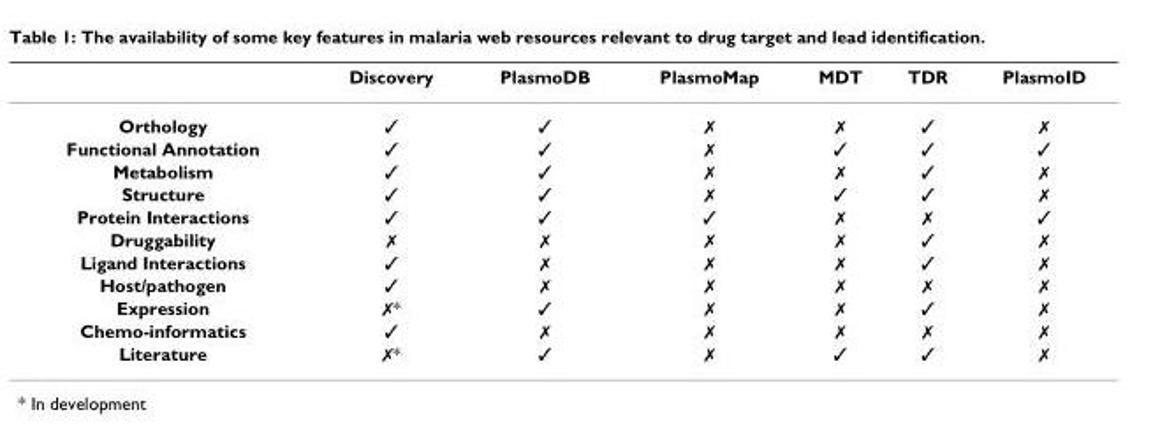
<table><thead><tr><td></td><td>Discovery</td><td>PlasmoDB</td><td>PlasmoMap</td><td>MDT</td><td>TDR</td><td>PlasmoID</td></tr></thead><tbody><tr><td>Orthology</td><td>✓</td><td>✓</td><td>✗</td><td>✗</td><td>✓</td><td>✗</td></tr><tr><td>Functional Annotation</td><td>✓</td><td>✓</td><td>✗</td><td>✓</td><td>✓</td><td>✓</td></tr><tr><td>Metabolism</td><td>✓</td><td>✓</td><td>✗</td><td>✗</td><td>✓</td><td>✗</td></tr><tr><td>Structure</td><td>✓</td><td>✓</td><td>✗</td><td>✓</td><td>✓</td><td>✗</td></tr><tr><td>Protein Interactions</td><td>✓</td><td>✓</td><td>✓</td><td>✗</td><td>✗</td><td>✓</td></tr><tr><td>Druggability</td><td>✗</td><td>✗</td><td>✗</td><td>✗</td><td>✓</td><td>✗</td></tr><tr><td>Ligand Interactions</td><td>✓</td><td>✗</td><td>✗</td><td>✗</td><td>✓</td><td>✗</td></tr><tr><td>Host/pathogen</td><td>✓</td><td>✗</td><td>✗</td><td>✗</td><td>✗</td><td>✗</td></tr><tr><td>Expression</td><td>✗*</td><td>✓</td><td>✗</td><td>✗</td><td>✓</td><td>✗</td></tr><tr><td>Chemo-informatics</td><td>✓</td><td>✗</td><td>✗</td><td>✗</td><td>✗</td><td>✗</td></tr><tr><td>Literature</td><td>✗*</td><td>✓</td><td>✗</td><td>✓</td><td>✓</td><td>✗</td></tr></tbody></table>